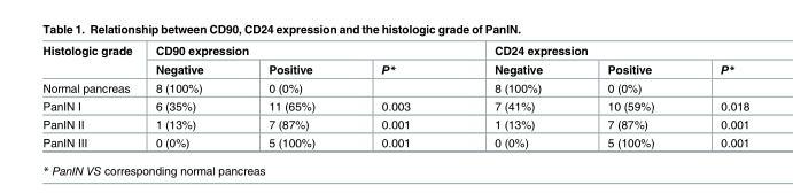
<table><thead><tr><td rowspan="2">Histologic grade</td><td colspan="3">CD90 expression</td><td colspan="3">CD24 expression</td></tr><tr><td>Negative</td><td>Positive</td><td>P*</td><td>Negative</td><td>Positive</td><td>P*</td></tr></thead><tbody><tr><td>Normal pancreas</td><td>8 (100%)</td><td>0 (0%)</td><td></td><td>8 (100%)</td><td>0 (0%)</td><td></td></tr><tr><td>PanIN I</td><td>6 (35%)</td><td>11 (65%)</td><td>0.003</td><td>7 (41%)</td><td>10 (59%)</td><td>0.018</td></tr><tr><td>PanIN II</td><td>1 (13%)</td><td>7 (87%)</td><td>0.001</td><td>1 (13%)</td><td>7 (87%)</td><td>0.001</td></tr><tr><td>PanIN III</td><td>0 (0%)</td><td>5 (100%)</td><td>0.001</td><td>0 (0%)</td><td>5 (100%)</td><td>0.001</td></tr></tbody></table>